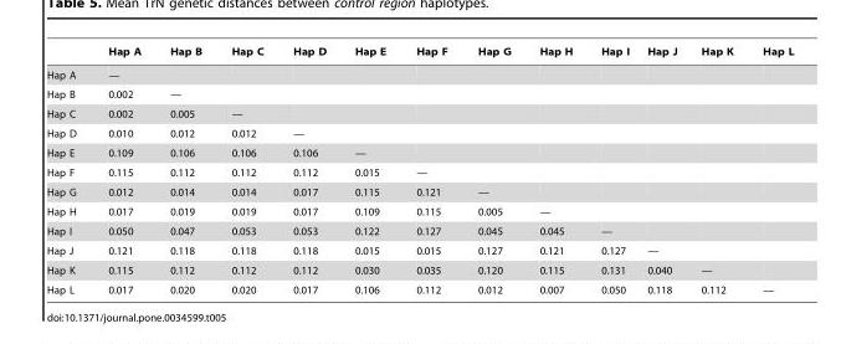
<table><thead><tr><td></td><td>Hap A</td><td>Hap B</td><td>Hap C</td><td>Hap D</td><td>Hap E</td><td>Hap F</td><td>Hap G</td><td>Hap H</td><td>Hap I</td><td>Hap J</td><td>Hap K</td><td>Hap L</td></tr></thead><tbody><tr><td>Hap A</td><td>—</td><td></td><td></td><td></td><td></td><td></td><td></td><td></td><td></td><td></td><td></td><td></td></tr><tr><td>Hap B</td><td>0.002</td><td>—</td><td></td><td></td><td></td><td></td><td></td><td></td><td></td><td></td><td></td><td></td></tr><tr><td>Hap C</td><td>0.002</td><td>0.005</td><td>—</td><td></td><td></td><td></td><td></td><td></td><td></td><td></td><td></td><td></td></tr><tr><td>Hap D</td><td>0.010</td><td>0.012</td><td>0.012</td><td>—</td><td></td><td></td><td></td><td></td><td></td><td></td><td></td><td></td></tr><tr><td>Hap E</td><td>0.109</td><td>0.106</td><td>0.106</td><td>0.106</td><td>—</td><td></td><td></td><td></td><td></td><td></td><td></td><td></td></tr><tr><td>Hap F</td><td>0.115</td><td>0.112</td><td>0.112</td><td>0.112</td><td>0.015</td><td>—</td><td></td><td></td><td></td><td></td><td></td><td></td></tr><tr><td>Hap G</td><td>0.012</td><td>0.014</td><td>0.014</td><td>0.017</td><td>0.115</td><td>0.121</td><td>—</td><td></td><td></td><td></td><td></td><td></td></tr><tr><td>Hap H</td><td>0.017</td><td>0.019</td><td>0.019</td><td>0.017</td><td>0.109</td><td>0.115</td><td>0.005</td><td>—</td><td></td><td></td><td></td><td></td></tr><tr><td>Hap I</td><td>0.050</td><td>0.047</td><td>0.053</td><td>0.053</td><td>0.122</td><td>0.127</td><td>0.045</td><td>0.045</td><td>—</td><td></td><td></td><td></td></tr><tr><td>Hap J</td><td>0.121</td><td>0.118</td><td>0.118</td><td>0.118</td><td>0.015</td><td>0.015</td><td>0.127</td><td>0.121</td><td>0.127</td><td>—</td><td></td><td></td></tr><tr><td>Hap K</td><td>0.115</td><td>0.112</td><td>0.112</td><td>0.112</td><td>0.030</td><td>0.035</td><td>0.120</td><td>0.115</td><td>0.131</td><td>0.040</td><td>—</td><td></td></tr><tr><td>Hap L</td><td>0.017</td><td>0.020</td><td>0.020</td><td>0.017</td><td>0.106</td><td>0.112</td><td>0.012</td><td>0.007</td><td>0.050</td><td>0.118</td><td>0.112</td><td>—</td></tr></tbody></table>